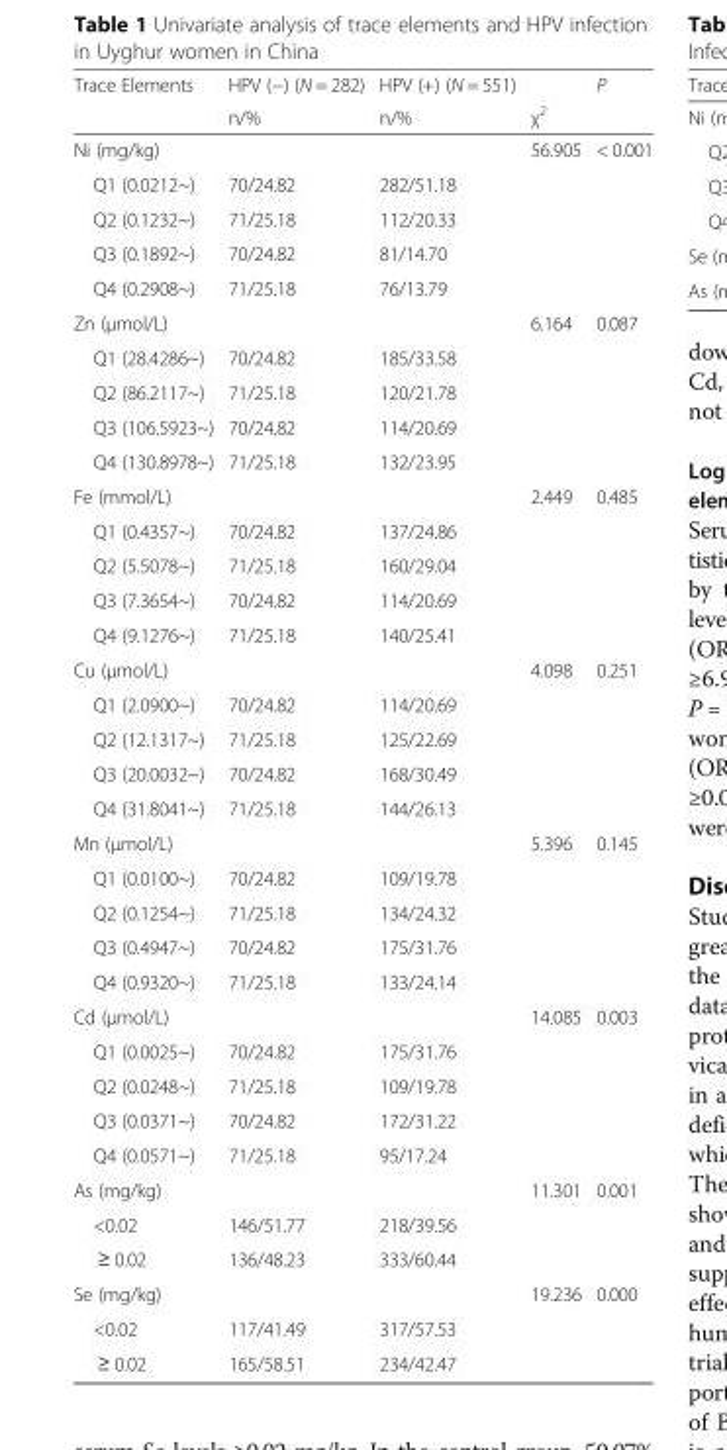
<table><thead><tr><td rowspan="2">Trace Elements</td><td rowspan="2">HPV (−) (N = 282) n/%</td><td rowspan="2">HPV (+) (N = 551) n/%</td><td rowspan="2">χ<sup>2</sup></td><td rowspan="2">P</td></tr><tr></tr></thead><tbody><tr><td>Ni (mg/kg)</td><td></td><td></td><td>56.905</td><td>&lt; 0.001</td></tr><tr><td>Q1 (0.0212~)</td><td>70/24.82</td><td>282/51.18</td><td></td><td></td></tr><tr><td>Q2 (0.1232~)</td><td>71/25.18</td><td>112/20.33</td><td></td><td></td></tr><tr><td>Q3 (0.1892~)</td><td>70/24.82</td><td>81/14.70</td><td></td><td></td></tr><tr><td>Q4 (0.2908~)</td><td>71/25.18</td><td>76/13.79</td><td></td><td></td></tr><tr><td>Zn (μmol/L)</td><td></td><td></td><td>6.164</td><td>0.087</td></tr><tr><td>Q1 (28.4286~)</td><td>70/24.82</td><td>185/33.58</td><td></td><td></td></tr><tr><td>Q2 (86.2117~)</td><td>71/25.18</td><td>120/21.78</td><td></td><td></td></tr><tr><td>Q3 (106.5923~)</td><td>70/24.82</td><td>114/20.69</td><td></td><td></td></tr><tr><td>Q4 (130.8978~)</td><td>71/25.18</td><td>132/23.95</td><td></td><td></td></tr><tr><td>Fe (mmol/L)</td><td></td><td></td><td>2.449</td><td>0.485</td></tr><tr><td>Q1 (0.4357~)</td><td>70/24.82</td><td>137/24.86</td><td></td><td></td></tr><tr><td>Q2 (5.5078~)</td><td>71/25.18</td><td>160/29.04</td><td></td><td></td></tr><tr><td>Q3 (7.3654~)</td><td>70/24.82</td><td>114/20.69</td><td></td><td></td></tr><tr><td>Q4 (9.1276~)</td><td>71/25.18</td><td>140/25.41</td><td></td><td></td></tr><tr><td>Cu (μmol/L)</td><td></td><td></td><td>4.098</td><td>0.251</td></tr><tr><td>Q1 (2.0900~)</td><td>70/24.82</td><td>114/20.69</td><td></td><td></td></tr><tr><td>Q2 (12.1317~)</td><td>71/25.18</td><td>125/22.69</td><td></td><td></td></tr><tr><td>Q3 (20.0032~)</td><td>70/24.82</td><td>168/30.49</td><td></td><td></td></tr><tr><td>Q4 (31.8041~)</td><td>71/25.18</td><td>144/26.13</td><td></td><td></td></tr><tr><td>Mn (μmol/L)</td><td></td><td></td><td>5.396</td><td>0.145</td></tr><tr><td>Q1 (0.0100~)</td><td>70/24.82</td><td>109/19.78</td><td></td><td></td></tr><tr><td>Q2 (0.1254~)</td><td>71/25.18</td><td>134/24.32</td><td></td><td></td></tr><tr><td>Q3 (0.4947~)</td><td>70/24.82</td><td>175/31.76</td><td></td><td></td></tr><tr><td>Q4 (0.9320~)</td><td>71/25.18</td><td>133/24.14</td><td></td><td></td></tr><tr><td>Cd (μmol/L)</td><td></td><td></td><td>14.085</td><td>0.003</td></tr><tr><td>Q1 (0.0025~)</td><td>70/24.82</td><td>175/31.76</td><td></td><td></td></tr><tr><td>Q2 (0.0248~)</td><td>71/25.18</td><td>109/19.78</td><td></td><td></td></tr><tr><td>Q3 (0.0371~)</td><td>70/24.82</td><td>172/31.22</td><td></td><td></td></tr><tr><td>Q4 (0.0571~)</td><td>71/25.18</td><td>95/17.24</td><td></td><td></td></tr><tr><td>As (mg/kg)</td><td></td><td></td><td>11.301</td><td>0.001</td></tr><tr><td>&lt;0.02</td><td>146/51.77</td><td>218/39.56</td><td></td><td></td></tr><tr><td>≥ 0.02</td><td>136/48.23</td><td>333/60.44</td><td></td><td></td></tr><tr><td>Se (mg/kg)</td><td></td><td></td><td>19.236</td><td>0.000</td></tr><tr><td>&lt;0.02</td><td>117/41.49</td><td>317/57.53</td><td></td><td></td></tr><tr><td>≥ 0.02</td><td>165/58.51</td><td>234/42.47</td><td></td><td></td></tr></tbody></table>